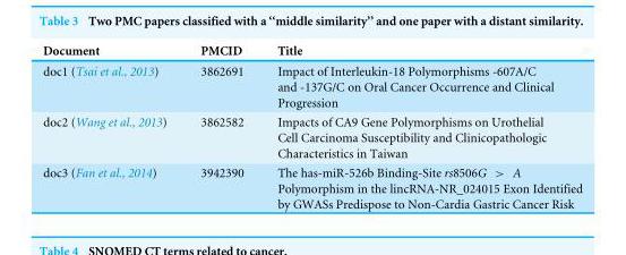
<table><thead><tr><td>Document</td><td>PMCID</td><td>Title</td></tr></thead><tbody><tr><td>doc1 (Tsai et al., 2013)</td><td>3862691</td><td>Impact of Interleukin-18 Polymorphisms -607A/C and -137G/C on Oral Cancer Occurrence and Clinical Progression</td></tr><tr><td>doc2 (Wang et al., 2013)</td><td>3862582</td><td>Impacts of CA9 Gene Polymorphisms on Urothelial Cell Carcinoma Susceptibility and Clinicopathologic Characteristics in Taiwan</td></tr><tr><td>doc3 (Fan et al., 2014)</td><td>3942390</td><td>The has-miR-526b Binding-Site rs8506G &gt; A Polymorphism in the lincRNA-NR_024015 Exon Identified by GWASs Predispose to Non-Cardia Gastric Cancer Risk</td></tr></tbody></table>